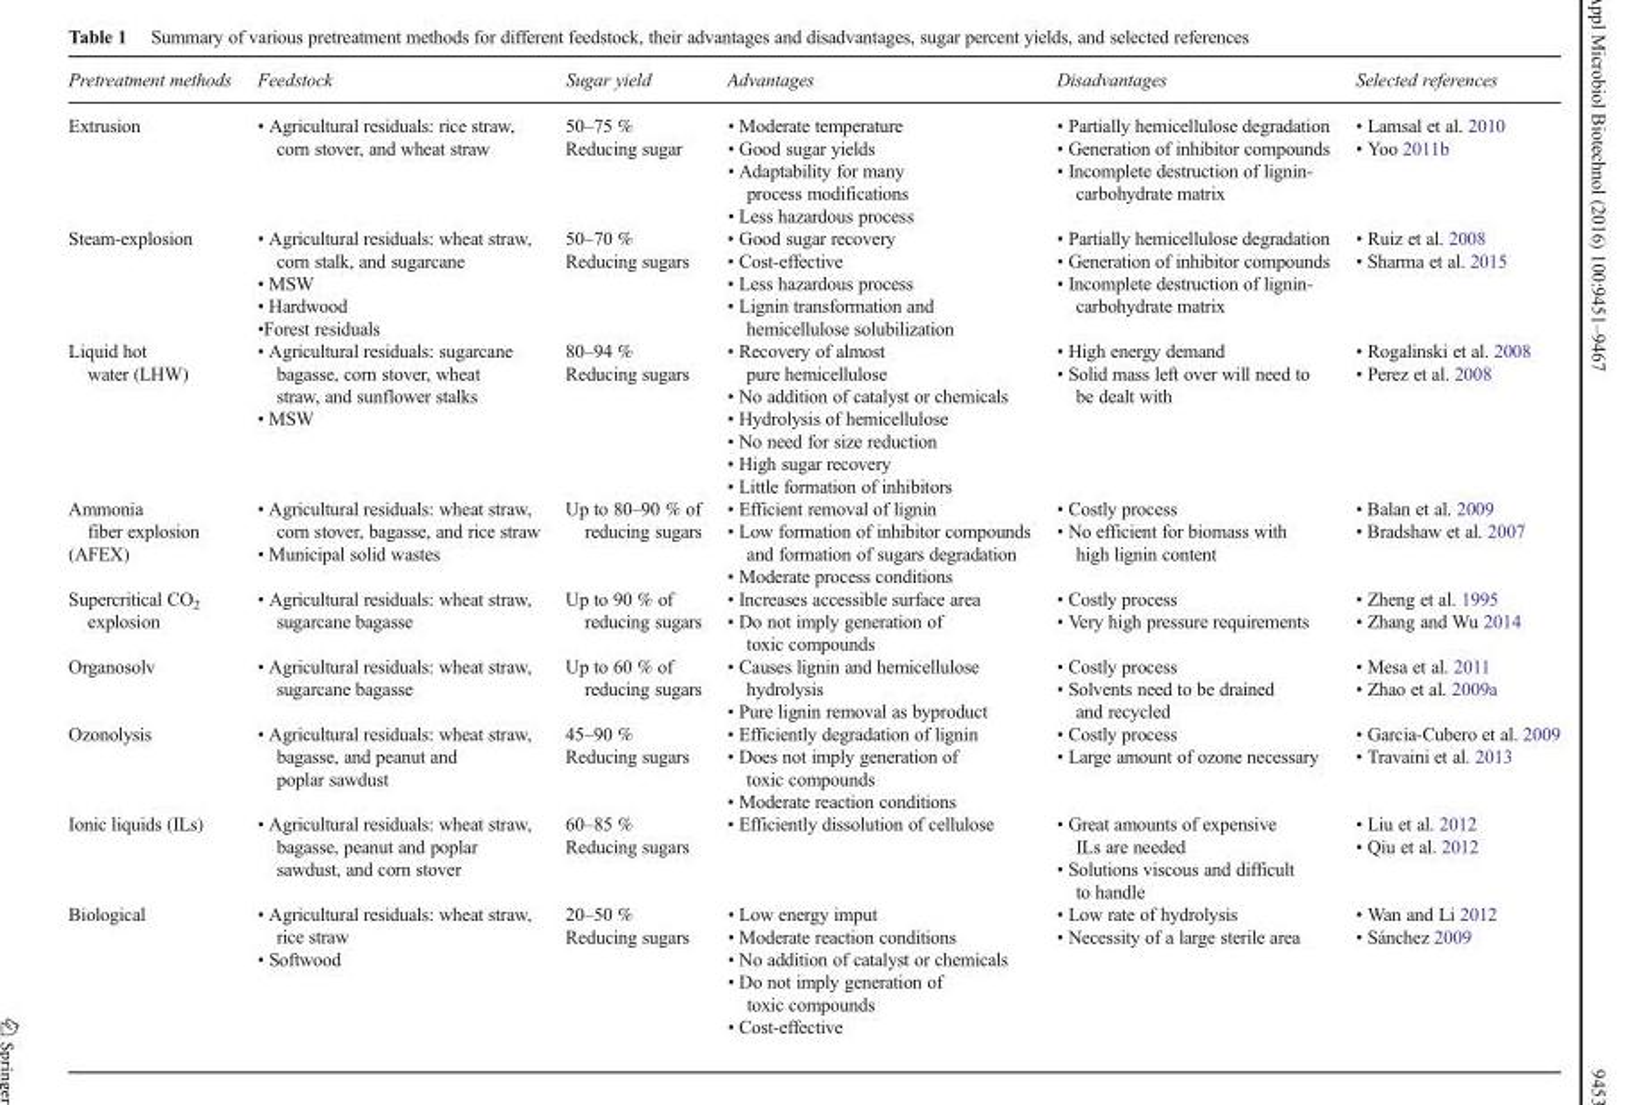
<table><thead><tr><td>Pretreatment methods</td><td>Feedstock</td><td>Sugar yield</td><td>Advantages</td><td>Disadvantages</td><td>Selected references</td></tr></thead><tbody><tr><td>Extrusion</td><td>• Agricultural residuals: rice straw, corn stover, and wheat straw</td><td>50–75 % Reducing sugar</td><td>• Moderate temperature • Good sugar yields • Adaptability for many process modifications • Less hazardous process</td><td>• Partially hemicellulose degradation • Generation of inhibitor compounds • Incomplete destruction of lignin- carbohydrate matrix</td><td>• Lamsal et al. 2010 • Yoo 2011b</td></tr><tr><td>Steam-explosion</td><td>• Agricultural residuals: wheat straw, corn stalk, and sugarcane • MSW • Hardwood •Forest residuals</td><td>50–70 % Reducing sugars</td><td>• Good sugar recovery • Cost-effective • Less hazardous process • Lignin transformation and hemicellulose solubilization</td><td>• Partially hemicellulose degradation • Generation of inhibitor compounds • Incomplete destruction of lignin- carbohydrate matrix</td><td>• Ruiz et al. 2008 • Sharma et al. 2015</td></tr><tr><td>Liquid hot water (LHW)</td><td>• Agricultural residuals: sugarcane bagasse, corn stover, wheat straw, and sunflower stalks • MSW</td><td>80–94 % Reducing sugars</td><td>• Recovery of almost pure hemicellulose • No addition of catalyst or chemicals • Hydrolysis of hemicellulose • No need for size reduction • High sugar recovery • Little formation of inhibitors</td><td>• High energy demand • Solid mass left over will need to be dealt with</td><td>• Rogalinski et al. 2008 • Perez et al. 2008</td></tr><tr><td>Ammonia fiber explosion (AFEX)</td><td>• Agricultural residuals: wheat straw, corn stover, bagasse, and rice straw • Municipal solid wastes</td><td>Up to 80–90 % of reducing sugars</td><td>• Efficient removal of lignin • Low formation of inhibitor compounds and formation of sugars degradation • Moderate process conditions</td><td>• Costly process • No efficient for biomass with high lignin content</td><td>• Balan et al. 2009 • Bradshaw et al. 2007</td></tr><tr><td>Supercritical CO<sub>2</sub> explosion</td><td>• Agricultural residuals: wheat straw, sugarcane bagasse</td><td>Up to 90 % of reducing sugars</td><td>• Increases accessible surface area • Do not imply generation of toxic compounds</td><td>• Costly process • Very high pressure requirements</td><td>• Zheng et al. 1995 • Zhang and Wu 2014</td></tr><tr><td>Organosolv</td><td>• Agricultural residuals: wheat straw, sugarcane bagasse</td><td>Up to 60 % of reducing sugars</td><td>• Causes lignin and hemicellulose hydrolysis • Pure lignin removal as byproduct</td><td>• Costly process • Solvents need to be drained and recycled</td><td>• Mesa et al. 2011 • Zhao et al. 2009a</td></tr><tr><td>Ozonolysis</td><td>• Agricultural residuals: wheat straw, bagasse, and peanut and poplar sawdust</td><td>45–90 % Reducing sugars</td><td>• Efficiently degradation of lignin • Does not imply generation of toxic compounds • Moderate reaction conditions</td><td>• Costly process • Large amount of ozone necessary</td><td>• Garcia-Cubero et al. 2009 • Travaini et al. 2013</td></tr><tr><td>Ionic liquids (ILs)</td><td>• Agricultural residuals: wheat straw, bagasse, peanut and poplar sawdust, and corn stover</td><td>60–85 % Reducing sugars</td><td>• Efficiently dissolution of cellulose</td><td>• Great amounts of expensive ILs are needed • Solutions viscous and difficult to handle</td><td>• Liu et al. 2012 • Qiu et al. 2012</td></tr><tr><td>Biological</td><td>• Agricultural residuals: wheat straw, rice straw • Softwood</td><td>20–50 % Reducing sugars</td><td>• Low energy imput • Moderate reaction conditions • No addition of catalyst or chemicals • Do not imply generation of toxic compounds • Cost-effective</td><td>• Low rate of hydrolysis • Necessity of a large sterile area</td><td>• Wan and Li 2012 • Sánchez 2009</td></tr></tbody></table>